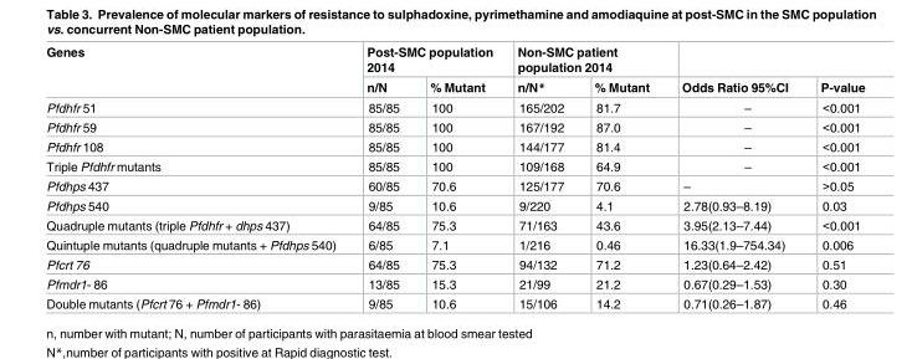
<table><thead><tr><td rowspan="2">Genes</td><td colspan="2">Post-SMC population 2014</td><td colspan="2">Non-SMC patient population 2014</td><td rowspan="2">Odds Ratio 95%CI</td><td rowspan="2">P-value</td></tr><tr><td>n/N</td><td>% Mutant</td><td>n/N*</td><td>% Mutant</td></tr></thead><tbody><tr><td>Pfdhfr 51</td><td>85/85</td><td>100</td><td>165/202</td><td>81.7</td><td>–</td><td>&lt;0.001</td></tr><tr><td>Pfdhfr 59</td><td>85/85</td><td>100</td><td>167/192</td><td>87.0</td><td>–</td><td>&lt;0.001</td></tr><tr><td>Pfdhfr 108</td><td>85/85</td><td>100</td><td>144/177</td><td>81.4</td><td>–</td><td>&lt;0.001</td></tr><tr><td>Triple Pfdhfr mutants</td><td>85/85</td><td>100</td><td>109/168</td><td>64.9</td><td>–</td><td>&lt;0.001</td></tr><tr><td>Pfdhps 437</td><td>60/85</td><td>70.6</td><td>125/177</td><td>70.6</td><td>–</td><td>&gt;0.05</td></tr><tr><td>Pfdhps 540</td><td>9/85</td><td>10.6</td><td>9/220</td><td>4.1</td><td>2.78(0.93–8.19)</td><td>0.03</td></tr><tr><td>Quadruple mutants (triple Pfdhfr + dhps 437)</td><td>64/85</td><td>75.3</td><td>71/163</td><td>43.6</td><td>3.95(2.13–7.44)</td><td>&lt;0.001</td></tr><tr><td>Quintuple mutants (quadruple mutants + Pfdhps 540)</td><td>6/85</td><td>7.1</td><td>1/216</td><td>0.46</td><td>16.33(1.9–754.34)</td><td>0.006</td></tr><tr><td>Pfcrt 76</td><td>64/85</td><td>75.3</td><td>94/132</td><td>71.2</td><td>1.23(0.64–2.42)</td><td>0.51</td></tr><tr><td>Pfmdr1- 86</td><td>13/85</td><td>15.3</td><td>21/99</td><td>21.2</td><td>0.67(0.29–1.53)</td><td>0.30</td></tr><tr><td>Double mutants (Pfcrt 76 + Pfmdr1- 86)</td><td>9/85</td><td>10.6</td><td>15/106</td><td>14.2</td><td>0.71(0.26–1.87)</td><td>0.46</td></tr></tbody></table>